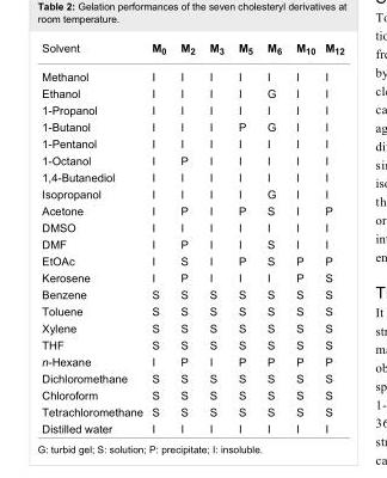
<table><tbody><tr><td>Solvent</td><td>M<sub>0</sub></td><td>M<sub>2</sub></td><td>M<sub>3</sub></td><td>M<sub>5</sub></td><td>M<sub>6</sub></td><td>M<sub>10</sub></td><td>M<sub>12</sub></td></tr><tr><td>Methanol</td><td>I</td><td>I</td><td>I</td><td>I</td><td>I</td><td>I</td><td>I</td></tr><tr><td>Ethanol</td><td>I</td><td>I</td><td>I</td><td>I</td><td>G</td><td>I</td><td>I</td></tr><tr><td>1-Propanol</td><td>I</td><td>I</td><td>I</td><td>I</td><td>I</td><td>I</td><td>I</td></tr><tr><td>1-Butanol</td><td>I</td><td>I</td><td>I</td><td>P</td><td>G</td><td>I</td><td>I</td></tr><tr><td>1-Pentanol</td><td>I</td><td>I</td><td>I</td><td>I</td><td>I</td><td>I</td><td>I</td></tr><tr><td>1-Octanol</td><td>I</td><td>P</td><td>I</td><td>I</td><td>I</td><td>I</td><td>I</td></tr><tr><td>1,4-Butanediol</td><td>I</td><td>I</td><td>I</td><td>I</td><td>I</td><td>I</td><td>I</td></tr><tr><td>Isopropanol</td><td>I</td><td>I</td><td>I</td><td>I</td><td>G</td><td>I</td><td>I</td></tr><tr><td>Acetone</td><td>I</td><td>P</td><td>I</td><td>P</td><td>S</td><td>I</td><td>P</td></tr><tr><td>DMSO</td><td>I</td><td>I</td><td>I</td><td>I</td><td>I</td><td>I</td><td>I</td></tr><tr><td>DMF</td><td>I</td><td>P</td><td>I</td><td>I</td><td>S</td><td>I</td><td>I</td></tr><tr><td>EtOAc</td><td>I</td><td>S</td><td>I</td><td>P</td><td>S</td><td>P</td><td>P</td></tr><tr><td>Kerosene</td><td>I</td><td>P</td><td>I</td><td>I</td><td>I</td><td>P</td><td>S</td></tr><tr><td>Benzene</td><td>S</td><td>S</td><td>S</td><td>S</td><td>S</td><td>S</td><td>S</td></tr><tr><td>Toluene</td><td>S</td><td>S</td><td>S</td><td>S</td><td>S</td><td>S</td><td>S</td></tr><tr><td>Xylene</td><td>S</td><td>S</td><td>S</td><td>S</td><td>S</td><td>S</td><td>S</td></tr><tr><td>THF</td><td>S</td><td>S</td><td>S</td><td>S</td><td>S</td><td>S</td><td>S</td></tr><tr><td>n-Hexane</td><td>I</td><td>P</td><td>I</td><td>P</td><td>P</td><td>P</td><td>P</td></tr><tr><td>Dichloromethane</td><td>S</td><td>S</td><td>S</td><td>S</td><td>S</td><td>S</td><td>S</td></tr><tr><td>Chloroform</td><td>S</td><td>S</td><td>S</td><td>S</td><td>S</td><td>S</td><td>S</td></tr><tr><td>Tetrachloromethane</td><td>S</td><td>S</td><td>S</td><td>S</td><td>S</td><td>S</td><td>S</td></tr><tr><td>Distilled water</td><td>I</td><td>I</td><td>I</td><td>I</td><td>I</td><td>I</td><td>I</td></tr></tbody></table>